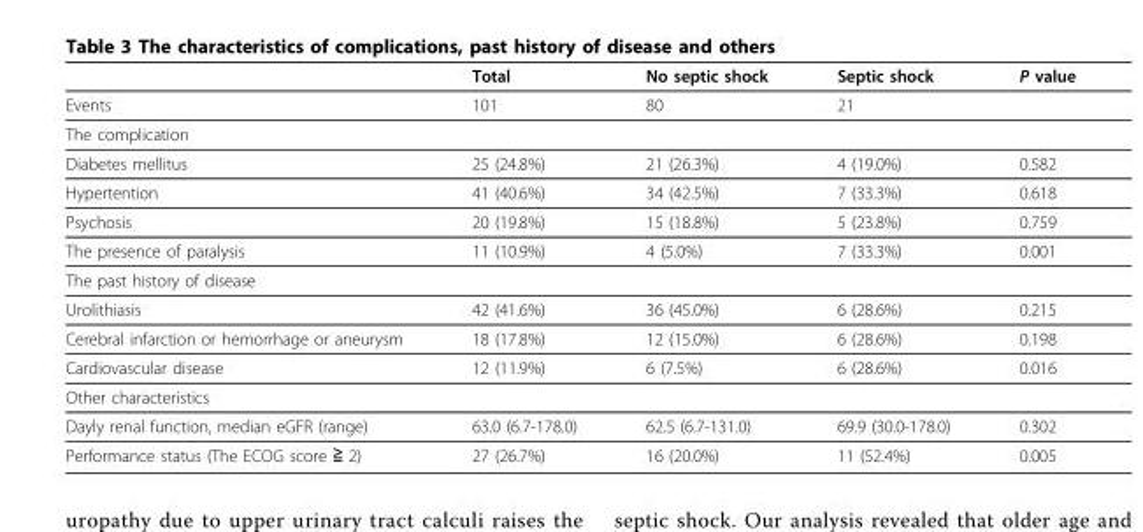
<table><thead><tr><td></td><td>Total</td><td>No septic shock</td><td>Septic shock</td><td>P value</td></tr></thead><tbody><tr><td>Events</td><td>101</td><td>80</td><td>21</td><td></td></tr><tr><td colspan="5">The complication</td></tr><tr><td>Diabetes mellitus</td><td>25 (24.8%)</td><td>21 (26.3%)</td><td>4 (19.0%)</td><td>0.582</td></tr><tr><td>Hypertention</td><td>41 (40.6%)</td><td>34 (42.5%)</td><td>7 (33.3%)</td><td>0.618</td></tr><tr><td>Psychosis</td><td>20 (19.8%)</td><td>15 (18.8%)</td><td>5 (23.8%)</td><td>0.759</td></tr><tr><td>The presence of paralysis</td><td>11 (10.9%)</td><td>4 (5.0%)</td><td>7 (33.3%)</td><td>0.001</td></tr><tr><td colspan="5">The past history of disease</td></tr><tr><td>Urolithiasis</td><td>42 (41.6%)</td><td>36 (45.0%)</td><td>6 (28.6%)</td><td>0.215</td></tr><tr><td>Cerebral infarction or hemorrhage or aneurysm</td><td>18 (17.8%)</td><td>12 (15.0%)</td><td>6 (28.6%)</td><td>0.198</td></tr><tr><td>Cardiovascular disease</td><td>12 (11.9%)</td><td>6 (7.5%)</td><td>6 (28.6%)</td><td>0.016</td></tr><tr><td colspan="5">Other characteristics</td></tr><tr><td>Dayly renal function, median eGFR (range)</td><td>63.0 (6.7-178.0)</td><td>62.5 (6.7-131.0)</td><td>69.9 (30.0-178.0)</td><td>0.302</td></tr><tr><td>Performance status (The ECOG score ≧ 2)</td><td>27 (26.7%)</td><td>16 (20.0%)</td><td>11 (52.4%)</td><td>0.005</td></tr></tbody></table>